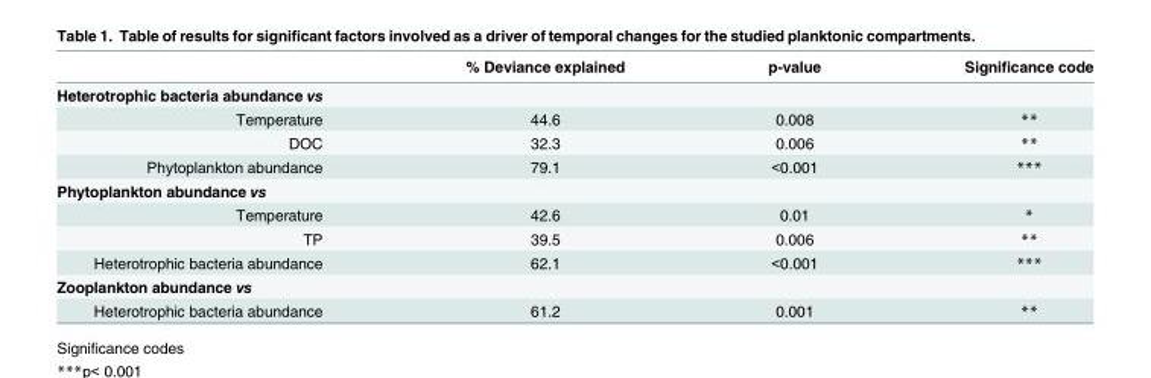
<table><thead><tr><td></td><td>% Deviance explained</td><td>p-value</td><td>Significance code</td></tr></thead><tbody><tr><td colspan="4">Heterotrophic bacteria abundance vs</td></tr><tr><td>Temperature</td><td>44.6</td><td>0.008</td><td>**</td></tr><tr><td>DOC</td><td>32.3</td><td>0.006</td><td>**</td></tr><tr><td>Phytoplankton abundance</td><td>79.1</td><td>&lt;0.001</td><td>***</td></tr><tr><td colspan="4">Phytoplankton abundance vs</td></tr><tr><td>Temperature</td><td>42.6</td><td>0.01</td><td>*</td></tr><tr><td>TP</td><td>39.5</td><td>0.006</td><td>**</td></tr><tr><td>Heterotrophic bacteria abundance</td><td>62.1</td><td>&lt;0.001</td><td>***</td></tr><tr><td colspan="4">Zooplankton abundance vs</td></tr><tr><td>Heterotrophic bacteria abundance</td><td>61.2</td><td>0.001</td><td>**</td></tr></tbody></table>